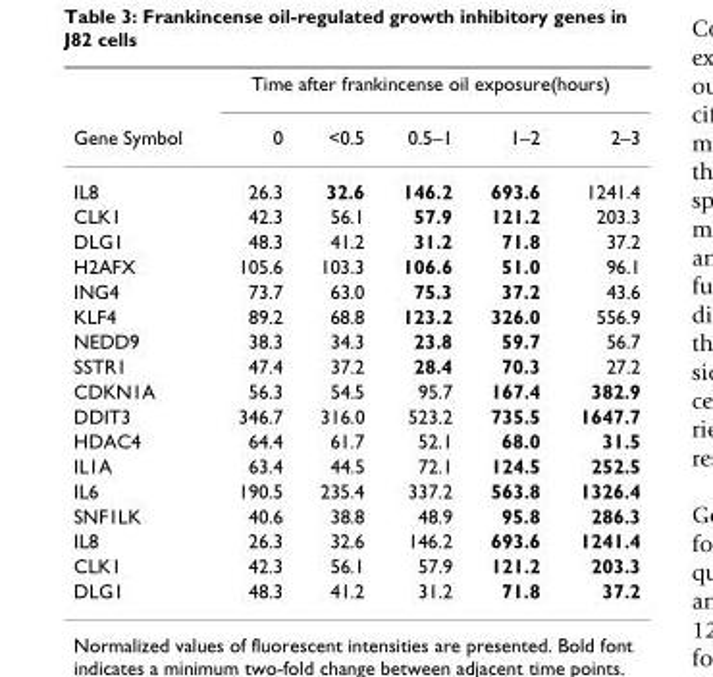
<table><thead><tr><td rowspan="2">Gene Symbol</td><td colspan="5">Time after frankincense oil exposure(hours)</td></tr><tr><td>0</td><td>&lt;0.5</td><td>0.5–1</td><td>1–2</td><td>2–3</td></tr></thead><tbody><tr><td>IL8</td><td>26.3</td><td>32.6</td><td>146.2</td><td>693.6</td><td>1241.4</td></tr><tr><td>CLK1</td><td>42.3</td><td>56.1</td><td>57.9</td><td>121.2</td><td>203.3</td></tr><tr><td>DLG1</td><td>48.3</td><td>41.2</td><td>31.2</td><td>71.8</td><td>37.2</td></tr><tr><td>H2AFX</td><td>105.6</td><td>103.3</td><td>106.6</td><td>51.0</td><td>96.1</td></tr><tr><td>ING4</td><td>73.7</td><td>63.0</td><td>75.3</td><td>37.2</td><td>43.6</td></tr><tr><td>KLF4</td><td>89.2</td><td>68.8</td><td>123.2</td><td>326.0</td><td>556.9</td></tr><tr><td>NEDD9</td><td>38.3</td><td>34.3</td><td>23.8</td><td>59.7</td><td>56.7</td></tr><tr><td>SSTR1</td><td>47.4</td><td>37.2</td><td>28.4</td><td>70.3</td><td>27.2</td></tr><tr><td>CDKN1A</td><td>56.3</td><td>54.5</td><td>95.7</td><td>167.4</td><td>382.9</td></tr><tr><td>DDIT3</td><td>346.7</td><td>316.0</td><td>523.2</td><td>735.5</td><td>1647.7</td></tr><tr><td>HDAC4</td><td>64.4</td><td>61.7</td><td>52.1</td><td>68.0</td><td>31.5</td></tr><tr><td>IL1A</td><td>63.4</td><td>44.5</td><td>72.1</td><td>124.5</td><td>252.5</td></tr><tr><td>IL6</td><td>190.5</td><td>235.4</td><td>337.2</td><td>563.8</td><td>1326.4</td></tr><tr><td>SNF1LK</td><td>40.6</td><td>38.8</td><td>48.9</td><td>95.8</td><td>286.3</td></tr><tr><td>IL8</td><td>26.3</td><td>32.6</td><td>146.2</td><td>693.6</td><td>1241.4</td></tr><tr><td>CLK1</td><td>42.3</td><td>56.1</td><td>57.9</td><td>121.2</td><td>203.3</td></tr><tr><td>DLG1</td><td>48.3</td><td>41.2</td><td>31.2</td><td>71.8</td><td>37.2</td></tr></tbody></table>